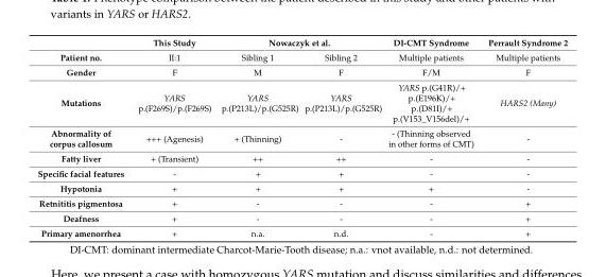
<table><thead><tr><td rowspan="2">Patient no.</td><td rowspan="2">This Study II:1</td><td colspan="2">Nowaczyk et al.</td><td rowspan="2">DI-CMT Syndrome Multiple patients</td><td rowspan="2">Perrault Syndrome 2 Multiple patients</td></tr><tr><td>Sibling 1</td><td>Sibling 2</td></tr></thead><tbody><tr><td>Gender</td><td>F</td><td>M</td><td>F</td><td>F/M</td><td>F</td></tr><tr><td>Mutations</td><td>YARS p.(F269S)/p.(F269S)</td><td>YARS p.(P213L)/p.(G525R)</td><td>YARS p.(P213L)/p.(G525R)</td><td>YARS p.(G41R)/+ p.(E196K)/+ p.(D81I)/+ p.(V153_V156del)/+</td><td>HARS2 (Many)</td></tr><tr><td>Abnormality of corpus callosum</td><td>+++ (Agenesis)</td><td>+ (Thinning)</td><td>-</td><td>- (Thinning observed in other forms of CMT)</td><td>-</td></tr><tr><td>Fatty liver</td><td>+ (Transient)</td><td>++</td><td>++</td><td>-</td><td>-</td></tr><tr><td>Specific facial features</td><td>-</td><td>+</td><td>+</td><td>-</td><td>-</td></tr><tr><td>Hypotonia</td><td>+</td><td>+</td><td>+</td><td>+</td><td>-</td></tr><tr><td>Retnititis pigmentosa</td><td>+</td><td>-</td><td>-</td><td>-</td><td>+</td></tr><tr><td>Deafness</td><td>+</td><td>-</td><td>-</td><td>-</td><td>+</td></tr><tr><td>Primary amenorrhea</td><td>+</td><td>n.a.</td><td>n.d.</td><td>-</td><td>+</td></tr></tbody></table>